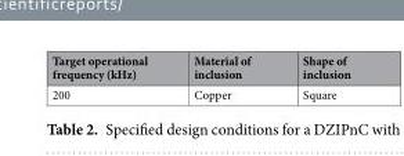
<table><thead><tr><td>Target operational frequency (kHz)</td><td>Material of inclusion</td><td>Shape of inclusion</td></tr></thead><tbody><tr><td>200</td><td>Copper</td><td>Square</td></tr></tbody></table>